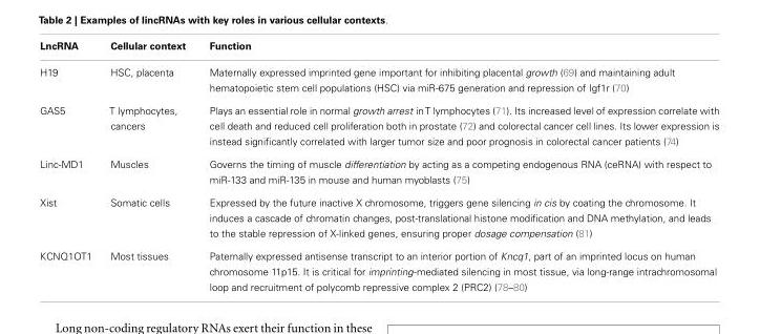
<table><thead><tr><td>LncRNA</td><td>Cellular context</td><td>Function</td></tr></thead><tbody><tr><td>H19</td><td>HSC, placenta</td><td>Maternally expressed imprinted gene important for inhibiting placental growth (69) and maintaining adult hematopoietic stem cell populations (HSC) via miR-675 generation and repression of Igf1r (70)</td></tr><tr><td>GAS5</td><td>T lymphocytes, cancers</td><td>Plays an essential role in normal growth arrest inT lymphocytes (71). Its increased level of expression correlate with cell death and reduced cell proliferation both in prostate (72) and colorectal cancer cell lines. Its lower expression is instead significantly correlated with larger tumor size and poor prognosis in colorectal cancer patients (74)</td></tr><tr><td>Linc-MD1</td><td>Muscles</td><td>Governs the timing of muscle differentiation by acting as a competing endogenous RNA (ceRNA) with respect to miR-133 and miR-135 in mouse and human myoblasts (75)</td></tr><tr><td>Xist</td><td>Somatic cells</td><td>Expressed by the future inactive X chromosome, triggers gene silencing in cis by coating the chromosome. It induces a cascade of chromatin changes, post-translational histone modification and DNA methylation, and leads to the stable repression of X-linked genes, ensuring proper dosage compensation (81)</td></tr><tr><td>KCNQ1OT1</td><td>Most tissues</td><td>Paternally expressed antisense transcript to an interior portion of Kncq1, part of an imprinted locus on human chromosome 11p15. It is critical for imprinting-mediated silencing in most tissue, via long-range intrachromosomal loop and recruitment of polycomb repressive complex 2 (PRC2) (78–80)</td></tr></tbody></table>